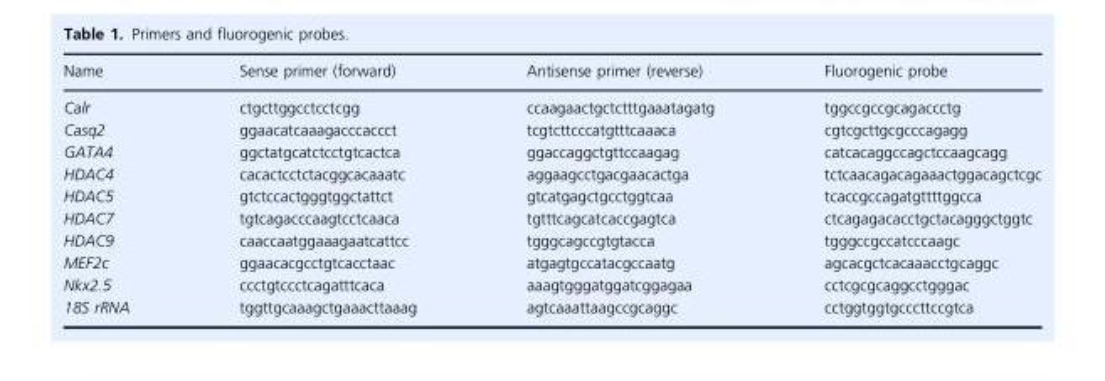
<table><thead><tr><td>Name</td><td>Sense primer (forward)</td><td>Antisense primer (reverse)</td><td>Fluorogenic probe</td></tr></thead><tbody><tr><td>Calr</td><td>ctgcttggcctcctcgg</td><td>ccaagaactgctctttgaaatagatg</td><td>tggccgccgcagaccctg</td></tr><tr><td>Casq2</td><td>ggaacatcaaagacccaccct</td><td>tcgtcttcccatgtttcaaaca</td><td>cgtcgcttgcgcccagagg</td></tr><tr><td>GATA4</td><td>ggctatgcatctcctgtcactca</td><td>ggaccaggctgttccaagag</td><td>catcacaggccagctccaagcagg</td></tr><tr><td>HDAC4</td><td>cacactcctctacggcacaaatc</td><td>aggaagcctgacgaacactga</td><td>tctcaacagacagaaactggacagctcgc</td></tr><tr><td>HDAC5</td><td>gtctccactgggtggctattct</td><td>gtcatgagctgcctggtcaa</td><td>tcaccgccagatgttttggcca</td></tr><tr><td>HDAC7</td><td>tgtcagacccaagtcctcaaca</td><td>tgtttcagcatcaccgagtca</td><td>ctcagagacacctgctacagggctggtc</td></tr><tr><td>HDAC9</td><td>caaccaatggaaagaatcattcc</td><td>tgggcagccgtgtacca</td><td>tgggccgccatcccaagc</td></tr><tr><td>MEF2c</td><td>ggaacacgcctgtcacctaac</td><td>atgagtgccatacgccaatg</td><td>agcacgctcacaaacctgcaggc</td></tr><tr><td>Nkx2.5</td><td>ccctgtccctcagatttcaca</td><td>aaagtgggatggatcggagaa</td><td>cctcgcgcaggcctgggac</td></tr><tr><td>18S rRNA</td><td>tggttgcaaagctgaaacttaaag</td><td>agtcaaattaagccgcaggc</td><td>cctggtggtgcccttccgtca</td></tr></tbody></table>